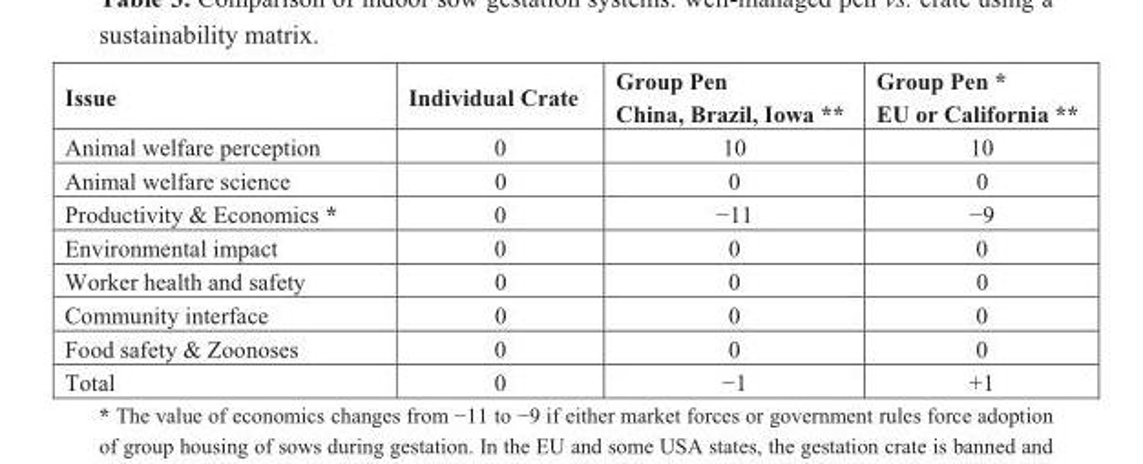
<table><thead><tr><td>Issue</td><td>Individual Crate</td><td>Group Pen China, Brazil, Iowa **</td><td>Group Pen * EU or California **</td></tr></thead><tbody><tr><td>Animal welfare perception</td><td>0</td><td>10</td><td>10</td></tr><tr><td>Animal welfare science</td><td>0</td><td>0</td><td>0</td></tr><tr><td>Productivity &amp; Economics *</td><td>0</td><td>−11</td><td>−9</td></tr><tr><td>Environmental impact</td><td>0</td><td>0</td><td>0</td></tr><tr><td>Worker health and safety</td><td>0</td><td>0</td><td>0</td></tr><tr><td>Community interface</td><td>0</td><td>0</td><td>0</td></tr><tr><td>Food safety &amp; Zoonoses</td><td>0</td><td>0</td><td>0</td></tr><tr><td>Total</td><td>0</td><td>−1</td><td>+1</td></tr></tbody></table>